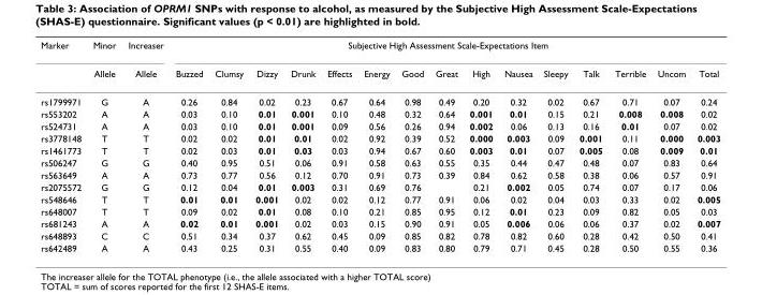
<table><thead><tr><td rowspan="2">Marker</td><td rowspan="2">Minor Allele</td><td rowspan="2">Increaser Allele</td><td colspan="15">Subjective High Assessment Scale-Expectations Item</td></tr><tr><td>Buzzed</td><td>Clumsy</td><td>Dizzy</td><td>Drunk</td><td>Effects</td><td>Energy</td><td>Good</td><td>Great</td><td>High</td><td>Nausea</td><td>Sleepy</td><td>Talk</td><td>Terrible</td><td>Uncom</td><td>Total</td></tr></thead><tbody><tr><td>rs1799971</td><td>G</td><td>A</td><td>0.26</td><td>0.84</td><td>0.02</td><td>0.23</td><td>0.67</td><td>0.64</td><td>0.98</td><td>0.49</td><td>0.20</td><td>0.32</td><td>0.02</td><td>0.67</td><td>0.71</td><td>0.07</td><td>0.24</td></tr><tr><td>rs553202</td><td>A</td><td>A</td><td>0.03</td><td>0.10</td><td>0.01</td><td>0.001</td><td>0.10</td><td>0.48</td><td>0.32</td><td>0.64</td><td>0.001</td><td>0.01</td><td>0.15</td><td>0.21</td><td>0.008</td><td>0.008</td><td>0.02</td></tr><tr><td>rs524731</td><td>A</td><td>A</td><td>0.03</td><td>0.10</td><td>0.01</td><td>0.001</td><td>0.09</td><td>0.56</td><td>0.26</td><td>0.94</td><td>0.002</td><td>0.06</td><td>0.13</td><td>0.16</td><td>0.01</td><td>0.07</td><td>0.02</td></tr><tr><td>rs3778148</td><td>T</td><td>T</td><td>0.02</td><td>0.02</td><td>0.01</td><td>0.01</td><td>0.02</td><td>0.92</td><td>0.39</td><td>0.52</td><td>0.000</td><td>0.003</td><td>0.09</td><td>0.001</td><td>0.11</td><td>0.000</td><td>0.003</td></tr><tr><td>rs1461773</td><td>T</td><td>T</td><td>0.02</td><td>0.03</td><td>0.01</td><td>0.03</td><td>0.03</td><td>0.94</td><td>0.67</td><td>0.60</td><td>0.003</td><td>0.01</td><td>0.07</td><td>0.005</td><td>0.08</td><td>0.009</td><td>0.01</td></tr><tr><td>rs506247</td><td>G</td><td>G</td><td>0.40</td><td>0.95</td><td>0.51</td><td>0.06</td><td>0.91</td><td>0.58</td><td>0.63</td><td>0.55</td><td>0.35</td><td>0.44</td><td>0.47</td><td>0.48</td><td>0.07</td><td>0.83</td><td>0.64</td></tr><tr><td>rs563649</td><td>A</td><td>A</td><td>0.73</td><td>0.77</td><td>0.56</td><td>0.12</td><td>0.70</td><td>0.91</td><td>0.73</td><td>0.39</td><td>0.84</td><td>0.62</td><td>0.58</td><td>0.38</td><td>0.06</td><td>0.57</td><td>0.91</td></tr><tr><td>rs2075572</td><td>G</td><td>G</td><td>0.12</td><td>0.04</td><td>0.01</td><td>0.003</td><td>0.31</td><td>0.69</td><td>0.76</td><td></td><td>0.21</td><td>0.002</td><td>0.05</td><td>0.74</td><td>0.07</td><td>0.17</td><td>0.06</td></tr><tr><td>rs548646</td><td>T</td><td>T</td><td>0.01</td><td>0.01</td><td>0.001</td><td>0.02</td><td>0.02</td><td>0.12</td><td>0.77</td><td>0.91</td><td>0.06</td><td>0.02</td><td>0.04</td><td>0.03</td><td>0.33</td><td>0.02</td><td>0.005</td></tr><tr><td>rs648007</td><td>T</td><td>T</td><td>0.09</td><td>0.02</td><td>0.01</td><td>0.08</td><td>0.10</td><td>0.21</td><td>0.85</td><td>0.95</td><td>0.12</td><td>0.01</td><td>0.23</td><td>0.09</td><td>0.82</td><td>0.05</td><td>0.03</td></tr><tr><td>rs681243</td><td>A</td><td>A</td><td>0.02</td><td>0.01</td><td>0.001</td><td>0.02</td><td>0.03</td><td>0.15</td><td>0.90</td><td>0.91</td><td>0.05</td><td>0.006</td><td>0.06</td><td>0.06</td><td>0.37</td><td>0.02</td><td>0.007</td></tr><tr><td>rs648893</td><td>C</td><td>C</td><td>0.51</td><td>0.34</td><td>0.37</td><td>0.62</td><td>0.45</td><td>0.09</td><td>0.85</td><td>0.82</td><td>0.78</td><td>0.82</td><td>0.60</td><td>0.28</td><td>0.42</td><td>0.50</td><td>0.41</td></tr><tr><td>rs642489</td><td>A</td><td>A</td><td>0.43</td><td>0.25</td><td>0.31</td><td>0.55</td><td>0.40</td><td>0.09</td><td>0.83</td><td>0.80</td><td>0.79</td><td>0.71</td><td>0.45</td><td>0.28</td><td>0.50</td><td>0.55</td><td>0.36</td></tr></tbody></table>